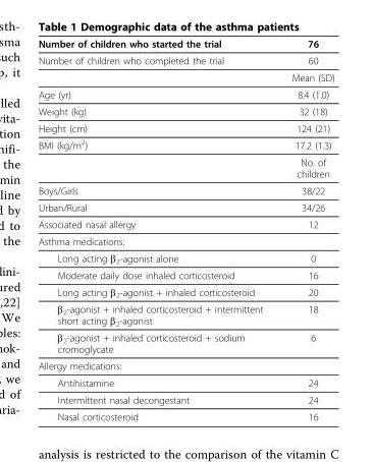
<table><thead><tr><td>Number of children who started the trial</td><td>76</td></tr></thead><tbody><tr><td rowspan="2">Number of children who completed the trial</td><td>60</td></tr><tr><td>Mean (SD)</td></tr><tr><td>Age (yr)</td><td>8.4 (1.0)</td></tr><tr><td>Weight (kg)</td><td>32 (18)</td></tr><tr><td>Height (cm)</td><td>124 (21)</td></tr><tr><td rowspan="2">BMI (kg/m2)</td><td>17.2 (1.3)</td></tr><tr><td>No. of children</td></tr><tr><td>Boys/Girls</td><td>38/22</td></tr><tr><td>Urban/Rural</td><td>34/26</td></tr><tr><td>Associated nasal allergy</td><td>12</td></tr><tr><td colspan="2">Asthma medications:</td></tr><tr><td>Long acting β2-agonist alone</td><td>0</td></tr><tr><td>Moderate daily dose inhaled corticosteroid</td><td>16</td></tr><tr><td>Long acting β2-agonist + inhaled corticosteroid</td><td>20</td></tr><tr><td>β2-agonist + inhaled corticosteroid + intermittent short acting β2-agonist</td><td>18</td></tr><tr><td>β2-agonist + inhaled corticosteroid + sodium cromoglycate</td><td>6</td></tr><tr><td colspan="2">Allergy medications:</td></tr><tr><td>Antihistamine</td><td>24</td></tr><tr><td>Intermittent nasal decongestant</td><td>24</td></tr><tr><td>Nasal corticosteroid</td><td>16</td></tr></tbody></table>